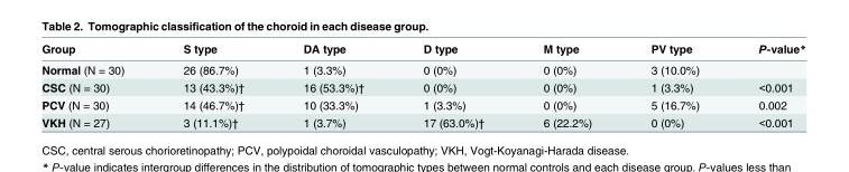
<table><thead><tr><td>Group</td><td>S type</td><td>DA type</td><td>D type</td><td>M type</td><td>PV type</td><td>P-value*</td></tr></thead><tbody><tr><td>Normal (N = 30)</td><td>26 (86.7%)</td><td>1 (3.3%)</td><td>0 (0%)</td><td>0 (0%)</td><td>3 (10.0%)</td><td></td></tr><tr><td>CSC (N = 30)</td><td>13 (43.3%)†</td><td>16 (53.3%)†</td><td>0 (0%)</td><td>0 (0%)</td><td>1 (3.3%)</td><td>&lt;0.001</td></tr><tr><td>PCV (N = 30)</td><td>14 (46.7%)†</td><td>10 (33.3%)</td><td>1 (3.3%)</td><td>0 (0%)</td><td>5 (16.7%)</td><td>0.002</td></tr><tr><td>VKH (N = 27)</td><td>3 (11.1%)†</td><td>1 (3.7%)</td><td>17 (63.0%)†</td><td>6 (22.2%)</td><td>0 (0%)</td><td>&lt;0.001</td></tr></tbody></table>